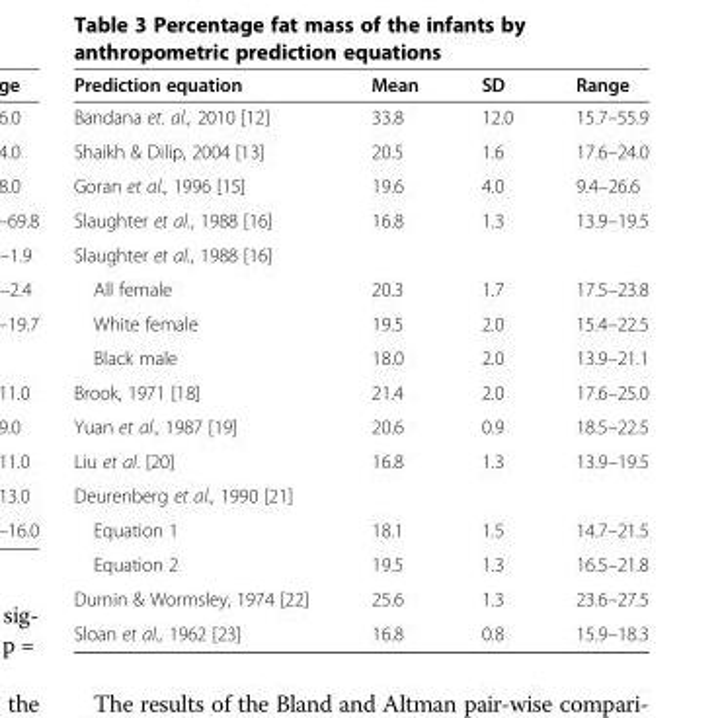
<table><thead><tr><td>Prediction equation</td><td>Mean</td><td>SD</td><td>Range</td></tr></thead><tbody><tr><td>Bandana et. al., 2010 [12]</td><td>33.8</td><td>12.0</td><td>15.7–55.9</td></tr><tr><td>Shaikh &amp; Dilip, 2004 [13]</td><td>20.5</td><td>1.6</td><td>17.6–24.0</td></tr><tr><td>Goran et al., 1996 [15]</td><td>19.6</td><td>4.0</td><td>9.4–26.6</td></tr><tr><td>Slaughter et al., 1988 [16]</td><td>16.8</td><td>1.3</td><td>13.9–19.5</td></tr><tr><td colspan="4">Slaughter et al., 1988 [16]</td></tr><tr><td>All female</td><td>20.3</td><td>1.7</td><td>17.5–23.8</td></tr><tr><td>White female</td><td>19.5</td><td>2.0</td><td>15.4–22.5</td></tr><tr><td>Black male</td><td>18.0</td><td>2.0</td><td>13.9–21.1</td></tr><tr><td>Brook, 1971 [18]</td><td>21.4</td><td>2.0</td><td>17.6–25.0</td></tr><tr><td>Yuan et al., 1987 [19]</td><td>20.6</td><td>0.9</td><td>18.5–22.5</td></tr><tr><td>Liu et al. [20]</td><td>16.8</td><td>1.3</td><td>13.9–19.5</td></tr><tr><td colspan="4">Deurenberg et al., 1990 [21]</td></tr><tr><td>Equation 1</td><td>18.1</td><td>1.5</td><td>14.7–21.5</td></tr><tr><td>Equation 2</td><td>19.5</td><td>1.3</td><td>16.5–21.8</td></tr><tr><td>Durnin &amp; Wormsley, 1974 [22]</td><td>25.6</td><td>1.3</td><td>23.6–27.5</td></tr><tr><td>Sloan et al., 1962 [23]</td><td>16.8</td><td>0.8</td><td>15.9–18.3</td></tr></tbody></table>